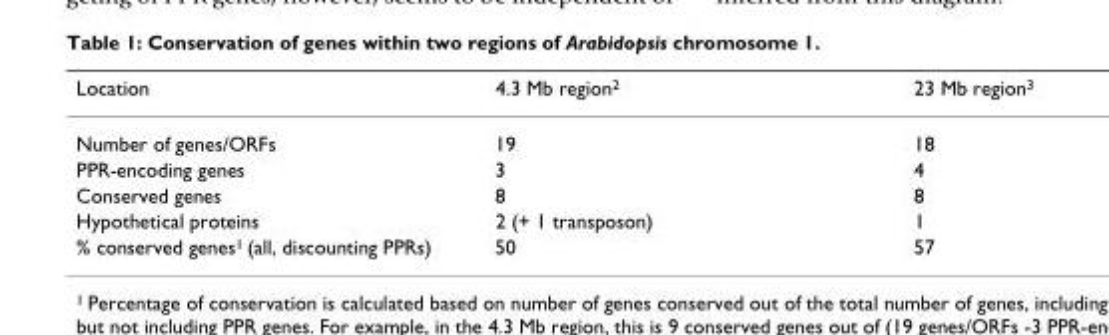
<table><thead><tr><td>Location</td><td>4.3 Mb region2</td><td>23 Mb region3</td></tr></thead><tbody><tr><td>Number of genes/ORFs</td><td>19</td><td>18</td></tr><tr><td>PPR-encoding genes</td><td>3</td><td>4</td></tr><tr><td>Conserved genes</td><td>8</td><td>8</td></tr><tr><td>Hypothetical proteins</td><td>2 (+ 1 transposon)</td><td>1</td></tr><tr><td>% conserved genes1 (all, discounting PPRs)</td><td>50</td><td>57</td></tr></tbody></table>